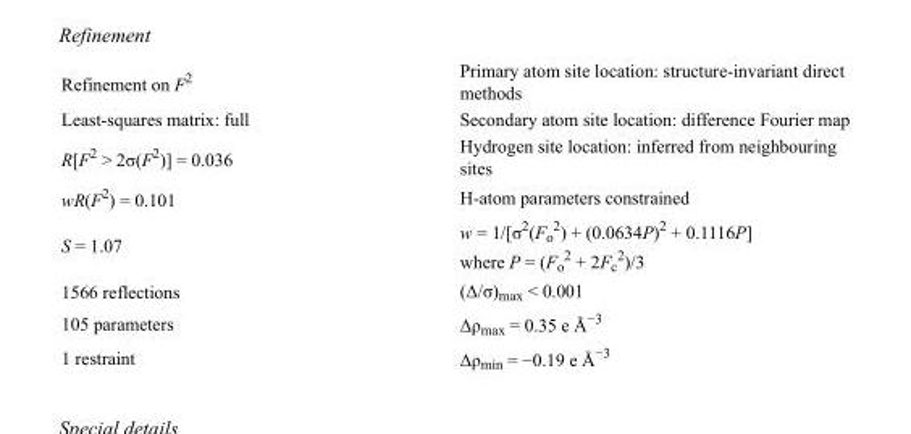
<table><tbody><tr><td>Refinement on F<sup>2</sup></td><td>Primary atom site location: structure-invariant direct methods</td></tr><tr><td>Least-squares matrix: full</td><td>Secondary atom site location: difference Fourier map</td></tr><tr><td>R[F<sup>2</sup> &gt; 2σ(F<sup>2</sup>)] = 0.036</td><td>Hydrogen site location: inferred from neighbouring sites</td></tr><tr><td>wR(F<sup>2</sup>) = 0.101</td><td>H-atom parameters constrained</td></tr><tr><td>S = 1.07</td><td>w = 1/[σ<sup>2</sup>(F<sub>o</sub> <sup>2</sup>) + (0.0634P)<sup>2</sup> + 0.1116P] where P = (F<sub>o</sub> <sup>2</sup> + 2F<sub>c</sub> <sup>2</sup>)/3</td></tr><tr><td>1566 reflections</td><td>(Δ/σ)<sub>max</sub> &lt; 0.001</td></tr><tr><td>105 parameters</td><td>Δρ<sub>max</sub> = 0.35 e Å<sup>−3</sup></td></tr><tr><td>1 restraint</td><td>Δρ<sub>min</sub> = −0.19 e Å<sup>−3</sup></td></tr></tbody></table>